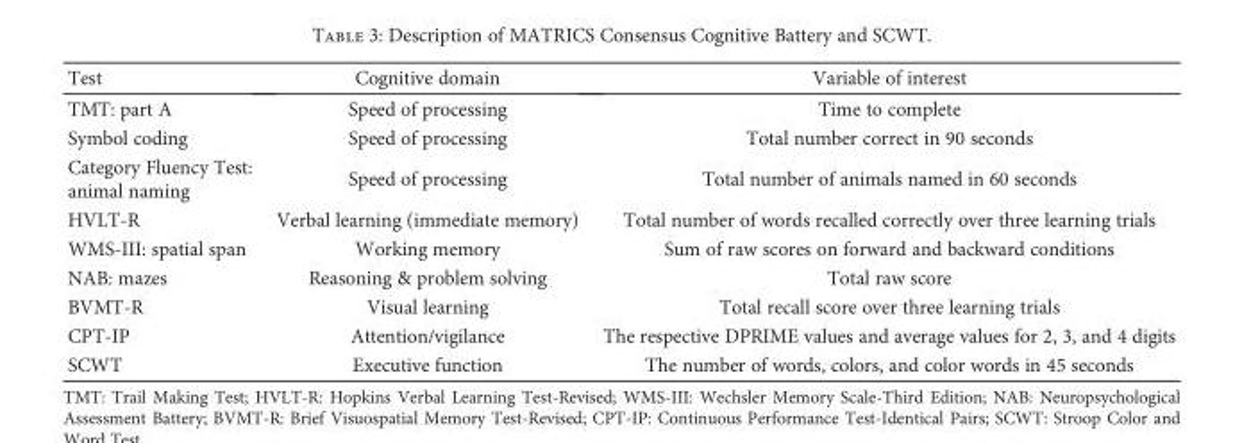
<table><thead><tr><td>Test</td><td>Cognitive domain</td><td>Variable of interest</td></tr></thead><tbody><tr><td>TMT: part A</td><td>Speed of processing</td><td>Time to complete</td></tr><tr><td>Symbol coding</td><td>Speed of processing</td><td>Total number correct in 90 seconds</td></tr><tr><td>Category Fluency Test: animal naming</td><td>Speed of processing</td><td>Total number of animals named in 60 seconds</td></tr><tr><td>HVLT-R</td><td>Verbal learning (immediate memory)</td><td>Total number of words recalled correctly over three learning trials</td></tr><tr><td>WMS-III: spatial span</td><td>Working memory</td><td>Sum of raw scores on forward and backward conditions</td></tr><tr><td>NAB: mazes</td><td>Reasoning &amp; problem solving</td><td>Total raw score</td></tr><tr><td>BVMT-R</td><td>Visual learning</td><td>Total recall score over three learning trials</td></tr><tr><td>CPT-IP</td><td>Attention/vigilance</td><td>The respective DPRIME values and average values for 2, 3, and 4 digits</td></tr><tr><td>SCWT</td><td>Executive function</td><td>The number of words, colors, and color words in 45 seconds</td></tr></tbody></table>